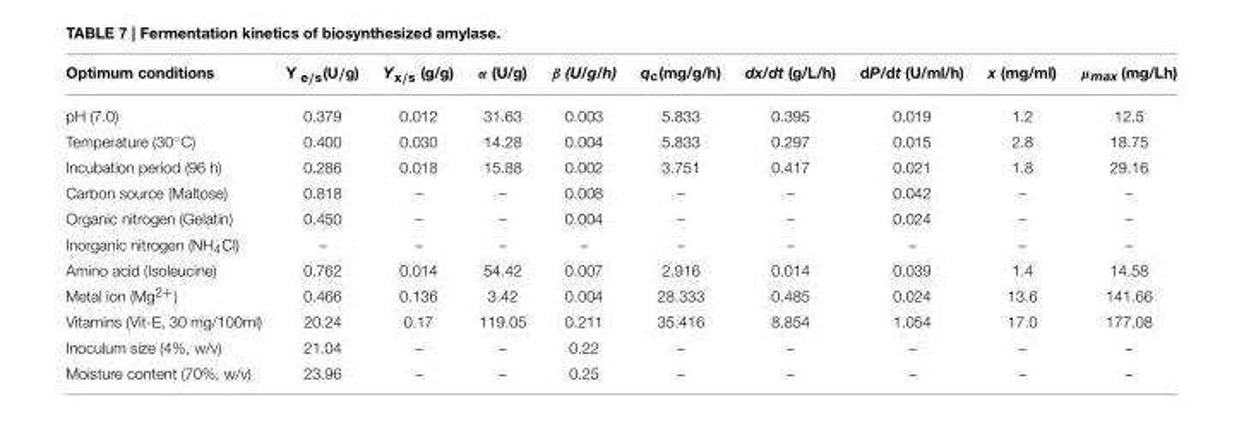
<table><thead><tr><td>Optimum conditions</td><td>Y <sub>e/s</sub>(U/g)</td><td>Y<sub>x/s</sub> (g/g)</td><td>α (U/g)</td><td>β (U/g/h)</td><td>q<sub>c</sub>(mg/g/h)</td><td>dx/dt (g/L/h)</td><td>dP/dt (U/ml/h)</td><td>x (mg/ml)</td><td>µ<sub>max</sub> (mg/Lh)</td></tr></thead><tbody><tr><td>pH (7.0)</td><td>0.379</td><td>0.012</td><td>31.63</td><td>0.003</td><td>5.833</td><td>0.395</td><td>0.019</td><td>1.2</td><td>12.5</td></tr><tr><td>Temperature (30◦C)</td><td>0.400</td><td>0.030</td><td>14.28</td><td>0.004</td><td>5.833</td><td>0.297</td><td>0.015</td><td>2.8</td><td>18.75</td></tr><tr><td>Incubation period (96 h)</td><td>0.286</td><td>0.018</td><td>15.88</td><td>0.002</td><td>3.751</td><td>0.417</td><td>0.021</td><td>1.8</td><td>29.16</td></tr><tr><td>Carbon source (Maltose)</td><td>0.818</td><td>–</td><td>–</td><td>0.008</td><td>–</td><td>–</td><td>0.042</td><td>–</td><td>–</td></tr><tr><td>Organic nitrogen (Gelatin)</td><td>0.450</td><td>–</td><td>–</td><td>0.004</td><td>–</td><td>–</td><td>0.024</td><td>–</td><td>–</td></tr><tr><td>Inorganic nitrogen (NH<sub>4</sub>Cl)</td><td>–</td><td>–</td><td>–</td><td>–</td><td>–</td><td>–</td><td>–</td><td>–</td><td>–</td></tr><tr><td>Amino acid (Isoleucine)</td><td>0.762</td><td>0.014</td><td>54.42</td><td>0.007</td><td>2.916</td><td>0.014</td><td>0.039</td><td>1.4</td><td>14.58</td></tr><tr><td>Metal ion (Mg<sup>2+</sup>)</td><td>0.466</td><td>0.136</td><td>3.42</td><td>0.004</td><td>28.333</td><td>0.485</td><td>0.024</td><td>13.6</td><td>141.66</td></tr><tr><td>Vitamins (Vit-E, 30 mg/100ml)</td><td>20.24</td><td>0.17</td><td>119.05</td><td>0.211</td><td>35.416</td><td>8.854</td><td>1.054</td><td>17.0</td><td>177.08</td></tr><tr><td>Inoculum size (4%, w/v)</td><td>21.04</td><td>–</td><td>–</td><td>0.22</td><td>–</td><td>–</td><td>–</td><td>–</td><td>–</td></tr><tr><td>Moisture content (70%, w/v)</td><td>23.96</td><td>–</td><td>–</td><td>0.25</td><td>–</td><td>–</td><td>–</td><td>–</td><td>–</td></tr></tbody></table>